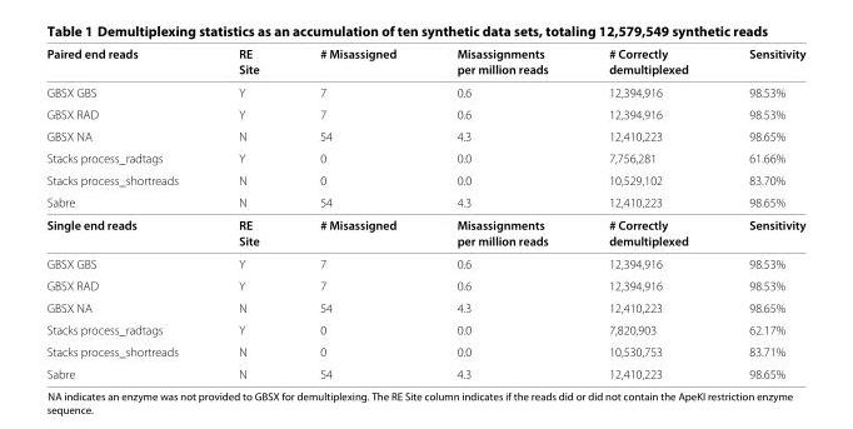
<table><thead><tr><td rowspan="2">Paired end reads</td><td rowspan="2">RE Site</td><td rowspan="2"># Misassigned</td><td rowspan="2">Misassignments per million reads</td><td rowspan="2"># Correctly demultiplexed</td><td rowspan="2">Sensitivity</td></tr><tr></tr></thead><tbody><tr><td>GBSX GBS</td><td>Y</td><td>7</td><td>0.6</td><td>12,394,916</td><td>98.53%</td></tr><tr><td>GBSX RAD</td><td>Y</td><td>7</td><td>0.6</td><td>12,394,916</td><td>98.53%</td></tr><tr><td>GBSX NA</td><td>N</td><td>54</td><td>4.3</td><td>12,410,223</td><td>98.65%</td></tr><tr><td>Stacks process_radtags</td><td>Y</td><td>0</td><td>0.0</td><td>7,756,281</td><td>61.66%</td></tr><tr><td>Stacks process_shortreads</td><td>N</td><td>0</td><td>0.0</td><td>10,529,102</td><td>83.70%</td></tr><tr><td>Sabre</td><td>N</td><td>54</td><td>4.3</td><td>12,410,223</td><td>98.65%</td></tr><tr><td rowspan="2">Single end reads</td><td>RE</td><td># Misassigned</td><td>Misassignments</td><td># Correctly</td><td>Sensitivity</td></tr><tr><td>Site</td><td></td><td>per million reads</td><td>demultiplexed</td><td></td></tr><tr><td>GBSX GBS</td><td>Y</td><td>7</td><td>0.6</td><td>12,394,916</td><td>98.53%</td></tr><tr><td>GBSX RAD</td><td>Y</td><td>7</td><td>0.6</td><td>12,394,916</td><td>98.53%</td></tr><tr><td>GBSX NA</td><td>N</td><td>54</td><td>4.3</td><td>12,410,223</td><td>98.65%</td></tr><tr><td>Stacks process_radtags</td><td>Y</td><td>0</td><td>0.0</td><td>7,820,903</td><td>62.17%</td></tr><tr><td>Stacks process_shortreads</td><td>N</td><td>0</td><td>0.0</td><td>10,530,753</td><td>83.71%</td></tr><tr><td>Sabre</td><td>N</td><td>54</td><td>4.3</td><td>12,410,223</td><td>98.65%</td></tr></tbody></table>